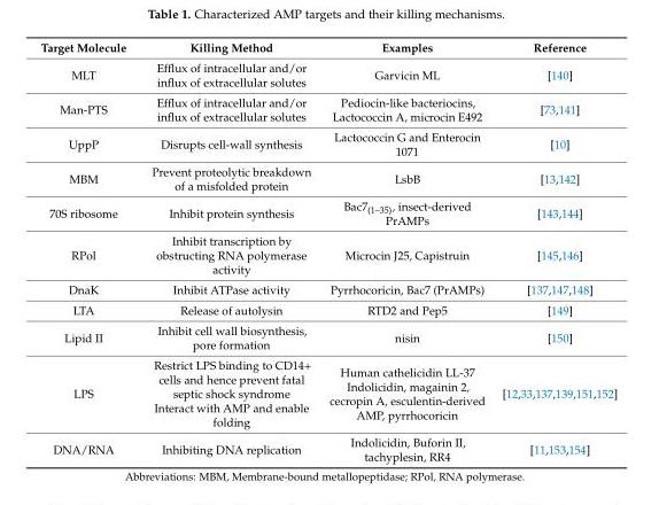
<table><thead><tr><td>Target Molecule</td><td>Killing Method</td><td>Examples</td><td>Reference</td></tr></thead><tbody><tr><td>MLT</td><td>Efflux of intracellular and/or influx of extracellular solutes</td><td>Garvicin ML</td><td>[140]</td></tr><tr><td>Man-PTS</td><td>Efflux of intracellular and/or influx of extracellular solutes</td><td>Pediocin-like bacteriocins, Lactococcin A, microcin E492</td><td>[73,141]</td></tr><tr><td>UppP</td><td>Disrupts cell-wall synthesis</td><td>Lactococcin G and Enterocin 1071</td><td>[10]</td></tr><tr><td>MBM</td><td>Prevent proteolytic breakdown of a misfolded protein</td><td>LsbB</td><td>[13,142]</td></tr><tr><td>70S ribosome</td><td>Inhibit protein synthesis</td><td>Bac7<sub>(1–35)</sub>, insect-derived PrAMPs</td><td>[143,144]</td></tr><tr><td>RPol</td><td>Inhibit transcription by obstructing RNA polymerase activity</td><td>Microcin J25, Capistruin</td><td>[145,146]</td></tr><tr><td>DnaK</td><td>Inhibit ATPase activity</td><td>Pyrrhocoricin, Bac7 (PrAMPs)</td><td>[137,147,148]</td></tr><tr><td>LTA</td><td>Release of autolysin</td><td>RTD2 and Pep5</td><td>[149]</td></tr><tr><td>Lipid II</td><td>Inhibit cell wall biosynthesis, pore formation</td><td>nisin</td><td>[150]</td></tr><tr><td>LPS</td><td>Restrict LPS binding to CD14+ cells and hence prevent fatal septic shock syndrome Interact with AMP and enable folding</td><td>Human cathelicidin LL-37 Indolicidin, magainin 2, cecropin A, esculentin-derived AMP, pyrrhocoricin</td><td>[12,33,137,139,151,152]</td></tr><tr><td>DNA/RNA</td><td>Inhibiting DNA replication</td><td>Indolicidin, Buforin II, tachyplesin, RR4</td><td>[11,153,154]</td></tr></tbody></table>